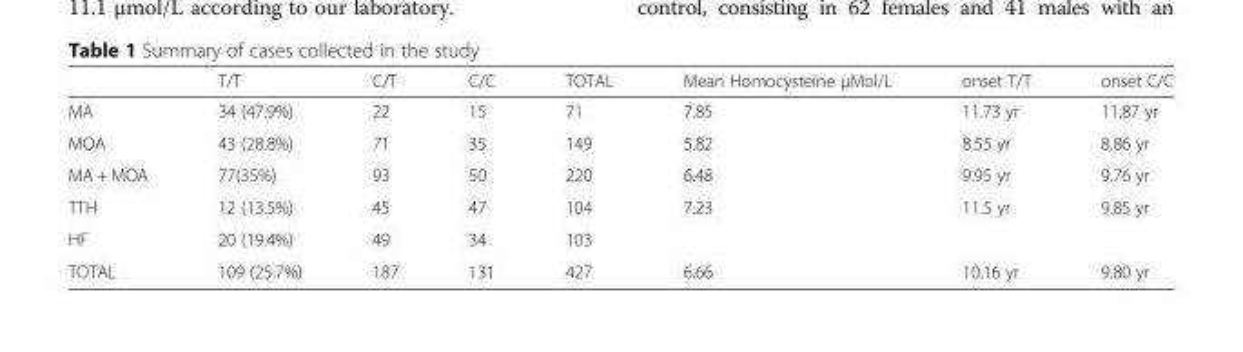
<table><thead><tr><td></td><td>T/T</td><td>C/T</td><td>C/C</td><td>TOTAL</td><td>Mean Homocysteine μMol/L</td><td>onset T/T</td><td>onset C/C</td></tr></thead><tbody><tr><td>MA</td><td>34 (47.9%)</td><td>22</td><td>15</td><td>71</td><td>7.85</td><td>11.73 yr</td><td>11.87 yr</td></tr><tr><td>MOA</td><td>43 (28.8%)</td><td>71</td><td>35</td><td>149</td><td>5.82</td><td>8.55 yr</td><td>8.86 yr</td></tr><tr><td>MA + MOA</td><td>77(35%)</td><td>93</td><td>50</td><td>220</td><td>6.48</td><td>9.95 yr</td><td>9.76 yr</td></tr><tr><td>TTH</td><td>12 (13.5%)</td><td>45</td><td>47</td><td>104</td><td>7.23</td><td>11.5 yr</td><td>9.85 yr</td></tr><tr><td>HF</td><td>20 (19.4%)</td><td>49</td><td>34</td><td>103</td><td></td><td></td><td></td></tr><tr><td>TOTAL</td><td>109 (25.7%)</td><td>187</td><td>131</td><td>427</td><td>6.66</td><td>10.16 yr</td><td>9.80 yr</td></tr></tbody></table>